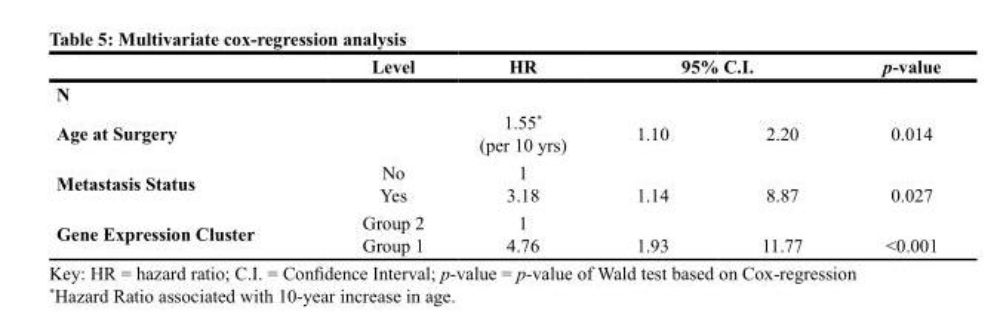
<table><thead><tr><td rowspan="2">N</td><td rowspan="2">Level</td><td rowspan="2">HR</td><td colspan="2">95% C.I.</td><td rowspan="2">p-value</td></tr><tr><td></td><td></td></tr></thead><tbody><tr><td>Age at Surgery</td><td></td><td>1.55* (per 10 yrs)</td><td>1.10</td><td>2.20</td><td>0.014</td></tr><tr><td>Metastasis Status</td><td>No Yes</td><td>1 3.18</td><td>1.14</td><td>8.87</td><td>0.027</td></tr><tr><td>Gene Expression Cluster</td><td>Group 2 Group 1</td><td>1 4.76</td><td>1.93</td><td>11.77</td><td>&lt;0.001</td></tr></tbody></table>